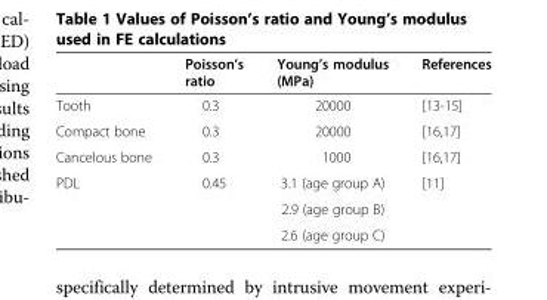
<table><thead><tr><td></td><td>Poisson’s ratio</td><td>Young’s modulus (MPa)</td><td>References</td></tr></thead><tbody><tr><td>Tooth</td><td>0.3</td><td>20000</td><td>[13-15]</td></tr><tr><td>Compact bone</td><td>0.3</td><td>20000</td><td>[16,17]</td></tr><tr><td>Cancelous bone</td><td>0.3</td><td>1000</td><td>[16,17]</td></tr><tr><td rowspan="3">PDL</td><td>0.45</td><td>3.1 (age group A)</td><td>[11]</td></tr><tr><td></td><td>2.9 (age group B)</td><td></td></tr><tr><td></td><td>2.6 (age group C)</td><td></td></tr></tbody></table>